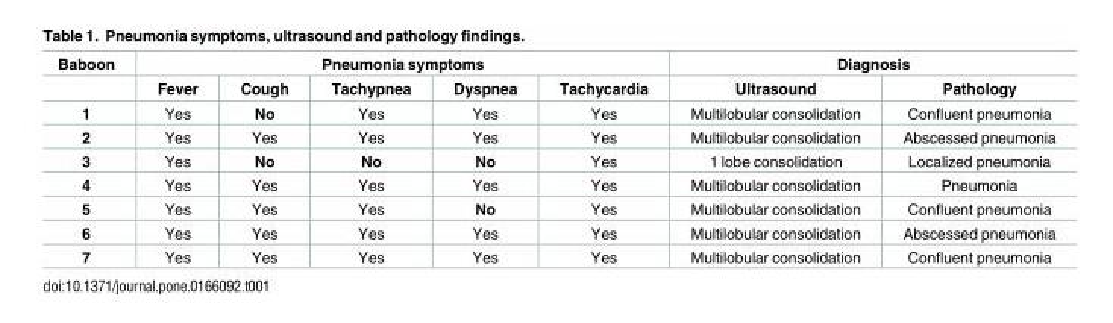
<table><thead><tr><td rowspan="2">Baboon</td><td colspan="5">Pneumonia symptoms</td><td colspan="2">Diagnosis</td></tr><tr><td>Fever</td><td>Cough</td><td>Tachypnea</td><td>Dyspnea</td><td>Tachycardia</td><td>Ultrasound</td><td>Pathology</td></tr></thead><tbody><tr><td>1</td><td>Yes</td><td>No</td><td>Yes</td><td>Yes</td><td>Yes</td><td>Multilobular consolidation</td><td>Confluent pneumonia</td></tr><tr><td>2</td><td>Yes</td><td>Yes</td><td>Yes</td><td>Yes</td><td>Yes</td><td>Multilobular consolidation</td><td>Abscessed pneumonia</td></tr><tr><td>3</td><td>Yes</td><td>No</td><td>No</td><td>No</td><td>Yes</td><td>1 lobe consolidation</td><td>Localized pneumonia</td></tr><tr><td>4</td><td>Yes</td><td>Yes</td><td>Yes</td><td>Yes</td><td>Yes</td><td>Multilobular consolidation</td><td>Pneumonia</td></tr><tr><td>5</td><td>Yes</td><td>Yes</td><td>Yes</td><td>No</td><td>Yes</td><td>Multilobular consolidation</td><td>Confluent pneumonia</td></tr><tr><td>6</td><td>Yes</td><td>Yes</td><td>Yes</td><td>Yes</td><td>Yes</td><td>Multilobular consolidation</td><td>Abscessed pneumonia</td></tr><tr><td>7</td><td>Yes</td><td>Yes</td><td>Yes</td><td>Yes</td><td>Yes</td><td>Multilobular consolidation</td><td>Confluent pneumonia</td></tr></tbody></table>